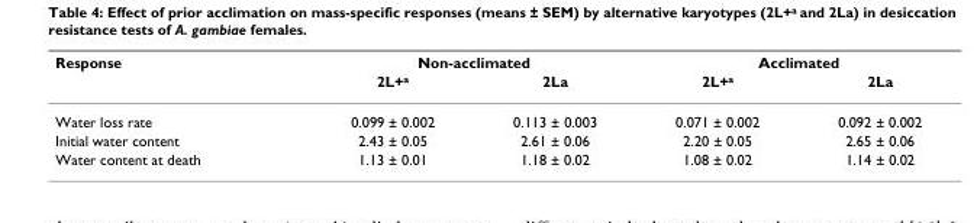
<table><thead><tr><td rowspan="2">Response</td><td colspan="2">Non-acclimated</td><td colspan="2">Acclimated</td></tr><tr><td>2L+<sup>a</sup></td><td>2La</td><td>2L+<sup>a</sup></td><td>2La</td></tr></thead><tbody><tr><td>Water loss rate</td><td>0.099 ± 0.002</td><td>0.113 ± 0.003</td><td>0.071 ± 0.002</td><td>0.092 ± 0.002</td></tr><tr><td>Initial water content</td><td>2.43 ± 0.05</td><td>2.61 ± 0.06</td><td>2.20 ± 0.05</td><td>2.65 ± 0.06</td></tr><tr><td>Water content at death</td><td>1.13 ± 0.01</td><td>1.18 ± 0.02</td><td>1.08 ± 0.02</td><td>1.14 ± 0.02</td></tr></tbody></table>